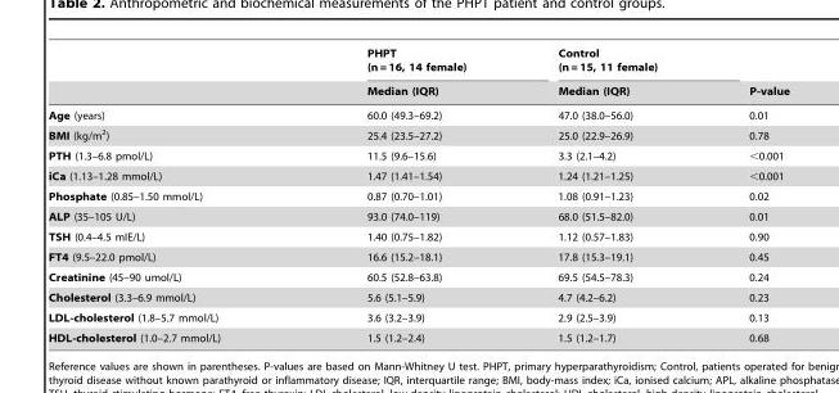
<table><thead><tr><td rowspan="2"></td><td rowspan="2">PHPT (n = 16, 14 female) Median (IQR)</td><td rowspan="2">Control (n = 15, 11 female) Median (IQR)</td><td rowspan="2">P-value</td></tr><tr></tr></thead><tbody><tr><td>Age (years)</td><td>60.0 (49.3–69.2)</td><td>47.0 (38.0–56.0)</td><td>0.01</td></tr><tr><td>BMI (kg/m<sup>2</sup>)</td><td>25.4 (23.5–27.2)</td><td>25.0 (22.9–26.9)</td><td>0.78</td></tr><tr><td>PTH (1.3–6.8 pmol/L)</td><td>11.5 (9.6–15.6)</td><td>3.3 (2.1–4.2)</td><td>&lt;0.001</td></tr><tr><td>iCa (1.13–1.28 mmol/L)</td><td>1.47 (1.41–1.54)</td><td>1.24 (1.21–1.25)</td><td>&lt;0.001</td></tr><tr><td>Phosphate (0.85–1.50 mmol/L)</td><td>0.87 (0.70–1.01)</td><td>1.08 (0.91–1.23)</td><td>0.02</td></tr><tr><td>ALP (35–105 U/L)</td><td>93.0 (74.0–119)</td><td>68.0 (51.5–82.0)</td><td>0.01</td></tr><tr><td>TSH (0.4–4.5 mIE/L)</td><td>1.40 (0.75–1.82)</td><td>1.12 (0.57–1.83)</td><td>0.90</td></tr><tr><td>FT4 (9.5–22.0 pmol/L)</td><td>16.6 (15.2–18.1)</td><td>17.8 (15.3–19.1)</td><td>0.45</td></tr><tr><td>Creatinine (45–90 umol/L)</td><td>60.5 (52.8–63.8)</td><td>69.5 (54.5–78.3)</td><td>0.24</td></tr><tr><td>Cholesterol (3.3–6.9 mmol/L)</td><td>5.6 (5.1–5.9)</td><td>4.7 (4.2–6.2)</td><td>0.23</td></tr><tr><td>LDL-cholesterol (1.8–5.7 mmol/L)</td><td>3.6 (3.2–3.9)</td><td>2.9 (2.5–3.9)</td><td>0.13</td></tr><tr><td>HDL-cholesterol (1.0–2.7 mmol/L)</td><td>1.5 (1.2–2.4)</td><td>1.5 (1.2–1.7)</td><td>0.68</td></tr></tbody></table>